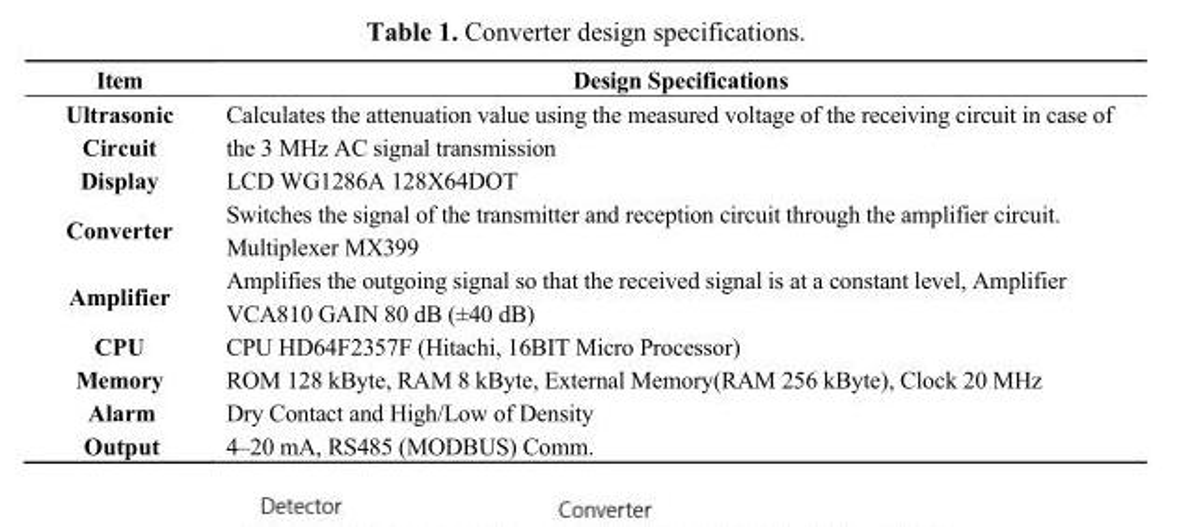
<table><thead><tr><td>Item</td><td>Design Specifications</td></tr></thead><tbody><tr><td>Ultrasonic Circuit</td><td>Calculates the attenuation value using the measured voltage of the receiving circuit in case of the 3 MHz AC signal transmission</td></tr><tr><td>Display</td><td>LCD WG1286A 128X64DOT</td></tr><tr><td>Converter</td><td>Switches the signal of the transmitter and reception circuit through the amplifier circuit. Multiplexer MX399</td></tr><tr><td>Amplifier</td><td>Amplifies the outgoing signal so that the received signal is at a constant level, Amplifier VCA810 GAIN 80 dB (±40 dB)</td></tr><tr><td>CPU</td><td>CPU HD64F2357F (Hitachi, 16BIT Micro Processor)</td></tr><tr><td>Memory</td><td>ROM 128 kByte, RAM 8 kByte, External Memory(RAM 256 kByte), Clock 20 MHz</td></tr><tr><td>Alarm</td><td>Dry Contact and High/Low of Density</td></tr><tr><td>Output</td><td>4–20 mA, RS485 (MODBUS) Comm.</td></tr></tbody></table>